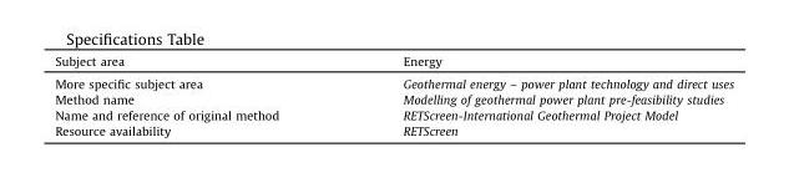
<table><thead><tr><td>Subject area</td><td>Energy</td></tr></thead><tbody><tr><td>More specific subject area</td><td>Geothermal energy – power plant technology and direct uses</td></tr><tr><td>Method name</td><td>Modelling of geothermal power plant pre-feasibility studies</td></tr><tr><td>Name and reference of original method</td><td>RETScreen-International Geothermal Project Model</td></tr><tr><td>Resource availability</td><td>RETScreen</td></tr></tbody></table>